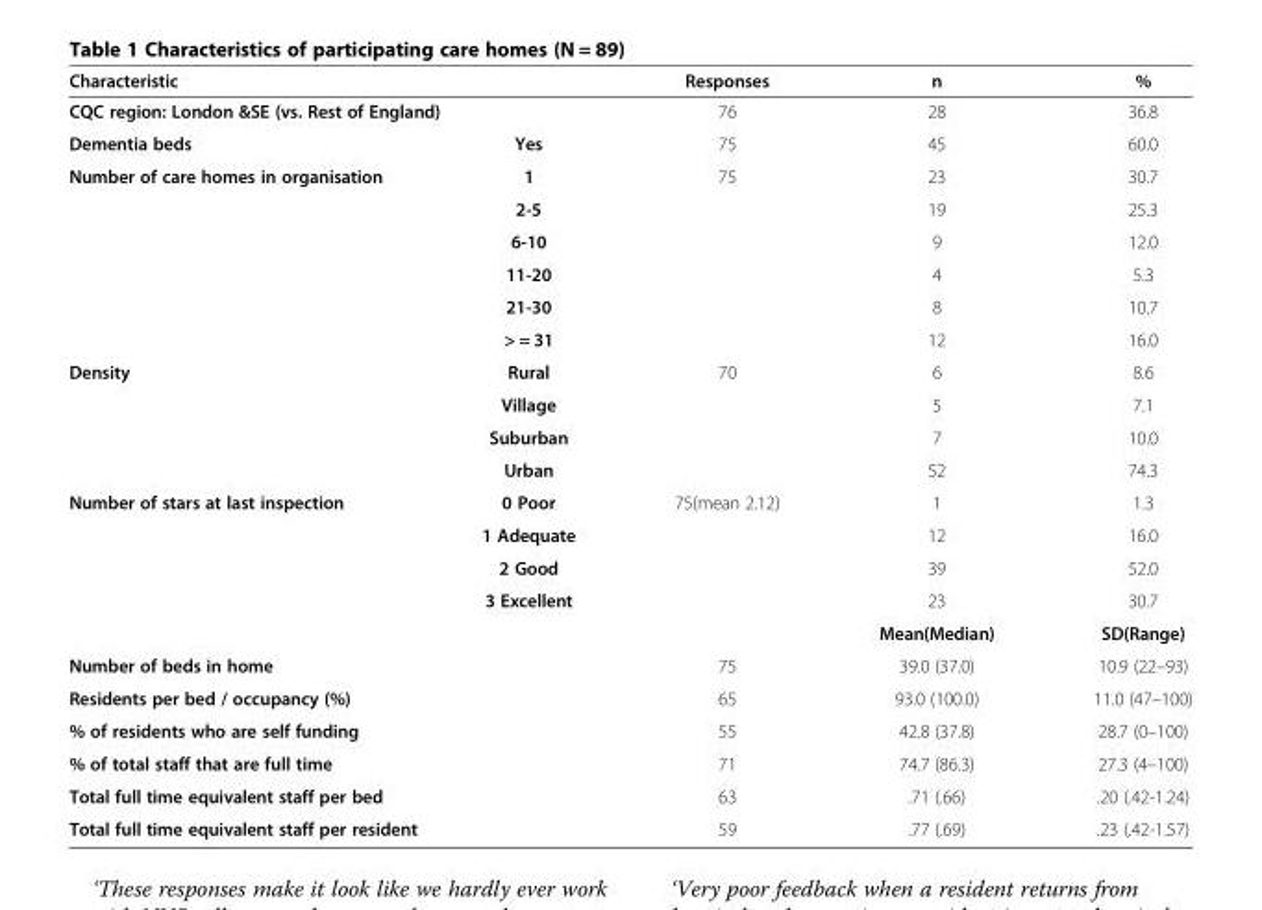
<table><thead><tr><td rowspan="2" colspan="2">Characteristic CQC region: London &amp;SE (vs. Rest of England)</td><td rowspan="3">Responses 76 75</td><td rowspan="3">n 28 45</td><td rowspan="3">% 36.8 60.0</td></tr><tr></tr><tr><td>Dementia beds</td><td>Yes</td></tr></thead><tbody><tr><td rowspan="6">Number of care homes in organisation</td><td>1</td><td rowspan="6">75</td><td>23</td><td>30.7</td></tr><tr><td>2-5</td><td>19</td><td>25.3</td></tr><tr><td>6-10</td><td>9</td><td>12.0</td></tr><tr><td>11-20</td><td>4</td><td>5.3</td></tr><tr><td>21-30</td><td>8</td><td>10.7</td></tr><tr><td>&gt; = 31</td><td>12</td><td>16.0</td></tr><tr><td rowspan="4">Density</td><td>Rural</td><td rowspan="4">70</td><td>6</td><td>8.6</td></tr><tr><td>Village</td><td>5</td><td>7.1</td></tr><tr><td>Suburban</td><td>7</td><td>10.0</td></tr><tr><td>Urban</td><td>52</td><td>74.3</td></tr><tr><td rowspan="4">Number of stars at last inspection</td><td>0 Poor</td><td rowspan="4">75(mean 2.12)</td><td>1</td><td>1.3</td></tr><tr><td>1 Adequate</td><td>12</td><td>16.0</td></tr><tr><td>2 Good</td><td>39</td><td>52.0</td></tr><tr><td>3 Excellent</td><td>23</td><td>30.7</td></tr><tr><td colspan="2"></td><td></td><td>Mean(Median)</td><td>SD(Range)</td></tr><tr><td colspan="2">Number of beds in home</td><td>75</td><td>39.0 (37.0)</td><td>10.9 (22–93)</td></tr><tr><td colspan="2">Residents per bed / occupancy (%)</td><td>65</td><td>93.0 (100.0)</td><td>11.0 (47–100)</td></tr><tr><td colspan="2">% of residents who are self funding</td><td>55</td><td>42.8 (37.8)</td><td>28.7 (0–100)</td></tr><tr><td colspan="2">% of total staff that are full time</td><td>71</td><td>74.7 (86.3)</td><td>27.3 (4–100)</td></tr><tr><td colspan="2">Total full time equivalent staff per bed</td><td>63</td><td>.71 (.66)</td><td>.20 (.42-1.24)</td></tr><tr><td colspan="2">Total full time equivalent staff per resident</td><td>59</td><td>.77 (.69)</td><td>.23 (.42-1.57)</td></tr></tbody></table>